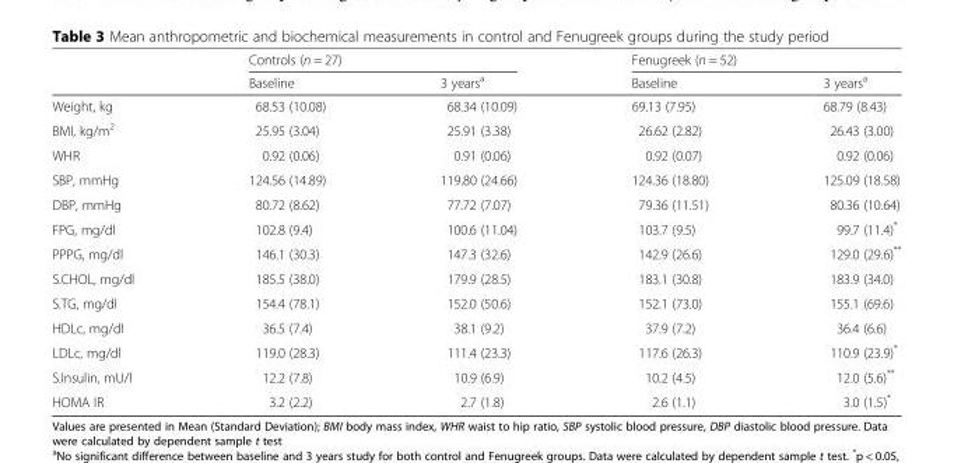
<table><thead><tr><td rowspan="2"></td><td colspan="2">Controls (n = 27)</td><td colspan="2">Fenugreek (n = 52)</td></tr><tr><td>Baseline</td><td>3 years<sup>a</sup></td><td>Baseline</td><td>3 years<sup>a</sup></td></tr></thead><tbody><tr><td>Weight, kg</td><td>68.53 (10.08)</td><td>68.34 (10.09)</td><td>69.13 (7.95)</td><td>68.79 (8.43)</td></tr><tr><td>BMI, kg/m<sup>2</sup></td><td>25.95 (3.04)</td><td>25.91 (3.38)</td><td>26.62 (2.82)</td><td>26.43 (3.00)</td></tr><tr><td>WHR</td><td>0.92 (0.06)</td><td>0.91 (0.06)</td><td>0.92 (0.07)</td><td>0.92 (0.06)</td></tr><tr><td>SBP, mmHg</td><td>124.56 (14.89)</td><td>119.80 (24.66)</td><td>124.36 (18.80)</td><td>125.09 (18.58)</td></tr><tr><td>DBP, mmHg</td><td>80.72 (8.62)</td><td>77.72 (7.07)</td><td>79.36 (11.51)</td><td>80.36 (10.64)</td></tr><tr><td>FPG, mg/dl</td><td>102.8 (9.4)</td><td>100.6 (11.04)</td><td>103.7 (9.5)</td><td>99.7 (11.4)*</td></tr><tr><td>PPPG, mg/dl</td><td>146.1 (30.3)</td><td>147.3 (32.6)</td><td>142.9 (26.6)</td><td>129.0 (29.6)**</td></tr><tr><td>S.CHOL, mg/dl</td><td>185.5 (38.0)</td><td>179.9 (28.5)</td><td>183.1 (30.8)</td><td>183.9 (34.0)</td></tr><tr><td>S.TG, mg/dl</td><td>154.4 (78.1)</td><td>152.0 (50.6)</td><td>152.1 (73.0)</td><td>155.1 (69.6)</td></tr><tr><td>HDLc, mg/dl</td><td>36.5 (7.4)</td><td>38.1 (9.2)</td><td>37.9 (7.2)</td><td>36.4 (6.6)</td></tr><tr><td>LDLc, mg/dl</td><td>119.0 (28.3)</td><td>111.4 (23.3)</td><td>117.6 (26.3)</td><td>110.9 (23.9)*</td></tr><tr><td>S.Insulin, mU/l</td><td>12.2 (7.8)</td><td>10.9 (6.9)</td><td>10.2 (4.5)</td><td>12.0 (5.6)**</td></tr><tr><td>HOMA IR</td><td>3.2 (2.2)</td><td>2.7 (1.8)</td><td>2.6 (1.1)</td><td>3.0 (1.5)*</td></tr></tbody></table>